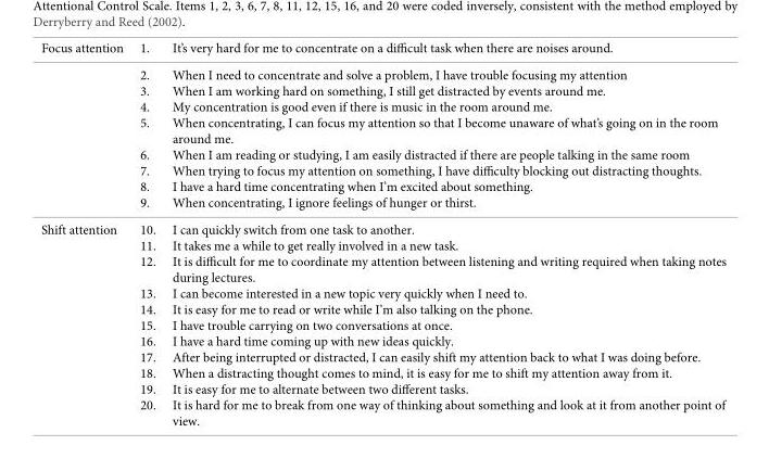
<table><tbody><tr><td rowspan="9">Focus attention</td><td>1.</td><td>It’s very hard for me to concentrate on a difficult task when there are noises around.</td></tr><tr><td>2.</td><td>When I need to concentrate and solve a problem, I have trouble focusing my attention</td></tr><tr><td>3.</td><td>When I am working hard on something, I still get distracted by events around me.</td></tr><tr><td>4.</td><td>My concentration is good even if there is music in the room around me.</td></tr><tr><td>5.</td><td>When concentrating, I can focus my attention so that I become unaware of what’s going on in the room around me.</td></tr><tr><td>6.</td><td>When I am reading or studying, I am easily distracted if there are people talking in the same room</td></tr><tr><td>7.</td><td>When trying to focus my attention on something, I have difficulty blocking out distracting thoughts.</td></tr><tr><td>8.</td><td>I have a hard time concentrating when I’m excited about something.</td></tr><tr><td>9.</td><td>When concentrating, I ignore feelings of hunger or thirst.</td></tr><tr><td rowspan="11">Shift attention</td><td>10.</td><td>I can quickly switch from one task to another.</td></tr><tr><td>11.</td><td>It takes me a while to get really involved in a new task.</td></tr><tr><td>12.</td><td>It is difficult for me to coordinate my attention between listening and writing required when taking notes during lectures.</td></tr><tr><td>13.</td><td>I can become interested in a new topic very quickly when I need to.</td></tr><tr><td>14.</td><td>It is easy for me to read or write while I’m also talking on the phone.</td></tr><tr><td>15.</td><td>I have trouble carrying on two conversations at once.</td></tr><tr><td>16.</td><td>I have a hard time coming up with new ideas quickly.</td></tr><tr><td>17.</td><td>After being interrupted or distracted, I can easily shift my attention back to what I was doing before.</td></tr><tr><td>18.</td><td>When a distracting thought comes to mind, it is easy for me to shift my attention away from it.</td></tr><tr><td>19.</td><td>It is easy for me to alternate between two different tasks.</td></tr><tr><td>20.</td><td>It is hard for me to break from one way of thinking about something and look at it from another point of view.</td></tr></tbody></table>